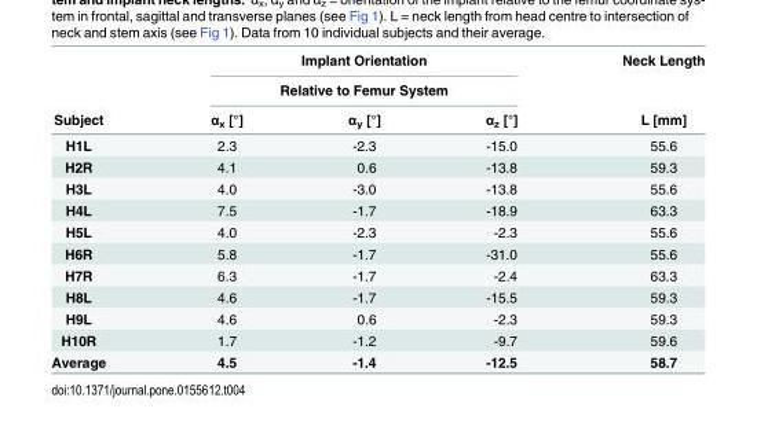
<table><thead><tr><td rowspan="3">Subject</td><td rowspan="2" colspan="3">Implant Orientation Relative to Femur System</td><td rowspan="3">Neck Length L [mm]</td></tr><tr></tr><tr><td>α<sub>x</sub> [°]</td><td>α<sub>y</sub> [°]</td><td>α<sub>z</sub> [°]</td></tr></thead><tbody><tr><td>H1L</td><td>2.3</td><td>-2.3</td><td>-15.0</td><td>55.6</td></tr><tr><td>H2R</td><td>4.1</td><td>0.6</td><td>-13.8</td><td>59.3</td></tr><tr><td>H3L</td><td>4.0</td><td>-3.0</td><td>-13.8</td><td>55.6</td></tr><tr><td>H4L</td><td>7.5</td><td>-1.7</td><td>-18.9</td><td>63.3</td></tr><tr><td>H5L</td><td>4.0</td><td>-2.3</td><td>-2.3</td><td>55.6</td></tr><tr><td>H6R</td><td>5.8</td><td>-1.7</td><td>-31.0</td><td>55.6</td></tr><tr><td>H7R</td><td>6.3</td><td>-1.7</td><td>-2.4</td><td>63.3</td></tr><tr><td>H8L</td><td>4.6</td><td>-1.7</td><td>-15.5</td><td>59.3</td></tr><tr><td>H9L</td><td>4.6</td><td>0.6</td><td>-2.3</td><td>59.3</td></tr><tr><td>H10R</td><td>1.7</td><td>-1.2</td><td>-9.7</td><td>59.6</td></tr><tr><td>Average</td><td>4.5</td><td>-1.4</td><td>-12.5</td><td>58.7</td></tr></tbody></table>